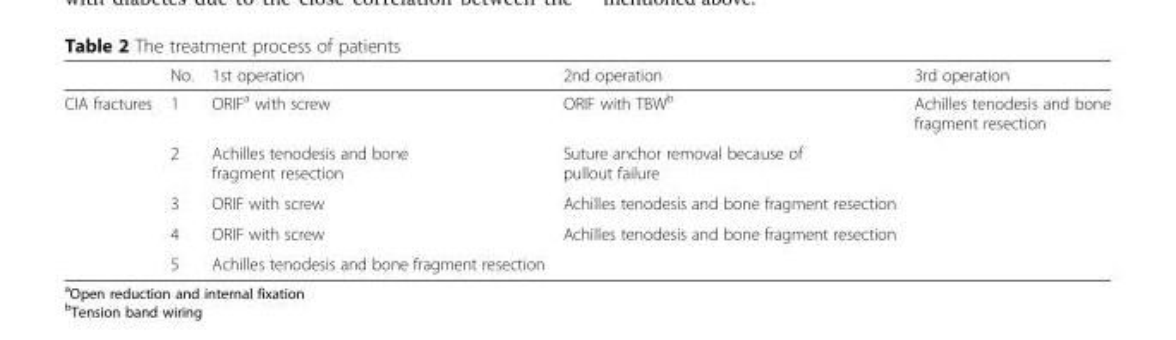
<table><thead><tr><td></td><td>No.</td><td>1st operation</td><td>2nd operation</td><td>3rd operation</td></tr></thead><tbody><tr><td rowspan="5">CIA fractures</td><td>1</td><td>ORIF<sup>a</sup> with screw</td><td>ORIF with TBW<sup>b</sup></td><td>Achilles tenodesis and bone fragment resection</td></tr><tr><td>2</td><td>Achilles tenodesis and bone fragment resection</td><td>Suture anchor removal because of pullout failure</td><td></td></tr><tr><td>3</td><td>ORIF with screw</td><td>Achilles tenodesis and bone fragment resection</td><td></td></tr><tr><td>4</td><td>ORIF with screw</td><td>Achilles tenodesis and bone fragment resection</td><td></td></tr><tr><td>5</td><td>Achilles tenodesis and bone fragment resection</td><td></td><td></td></tr></tbody></table>